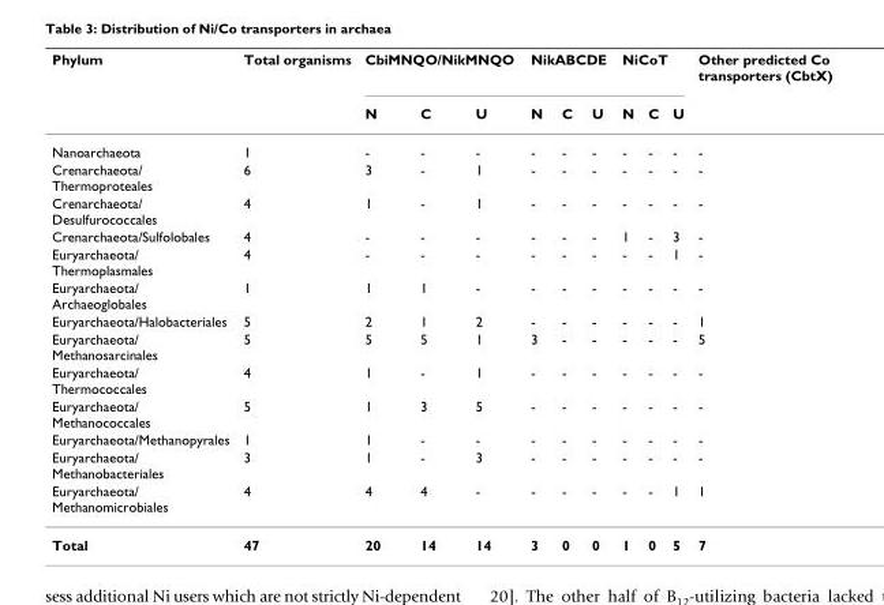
<table><thead><tr><td rowspan="2">Phylum</td><td rowspan="2">Total organisms</td><td colspan="3">CbiMNQO/NikMNQO</td><td colspan="3">NikABCDE</td><td colspan="3">NiCoT</td><td rowspan="2">Other predicted Co transporters (CbtX)</td></tr><tr><td>N</td><td>C</td><td>U</td><td>N</td><td>C</td><td>U</td><td>N</td><td>C</td><td>U</td></tr></thead><tbody><tr><td>Nanoarchaeota</td><td>1</td><td>-</td><td>-</td><td>-</td><td>-</td><td>-</td><td>-</td><td>-</td><td>-</td><td>-</td><td>-</td></tr><tr><td>Crenarchaeota/ Thermoproteales</td><td>6</td><td>3</td><td>-</td><td>1</td><td>-</td><td>-</td><td>-</td><td>-</td><td>-</td><td>-</td><td>-</td></tr><tr><td>Crenarchaeota/ Desulfurococcales</td><td>4</td><td>1</td><td>-</td><td>1</td><td>-</td><td>-</td><td>-</td><td>-</td><td>-</td><td>-</td><td>-</td></tr><tr><td>Crenarchaeota/Sulfolobales</td><td>4</td><td>-</td><td>-</td><td>-</td><td>-</td><td>-</td><td>-</td><td>1</td><td>-</td><td>3</td><td>-</td></tr><tr><td>Euryarchaeota/ Thermoplasmales</td><td>4</td><td>-</td><td>-</td><td>-</td><td>-</td><td>-</td><td>-</td><td>-</td><td>-</td><td>1</td><td>-</td></tr><tr><td>Euryarchaeota/ Archaeoglobales</td><td>1</td><td>1</td><td>1</td><td>-</td><td>-</td><td>-</td><td>-</td><td>-</td><td>-</td><td>-</td><td>-</td></tr><tr><td>Euryarchaeota/Halobacteriales</td><td>5</td><td>2</td><td>1</td><td>2</td><td>-</td><td>-</td><td>-</td><td>-</td><td>-</td><td>-</td><td>1</td></tr><tr><td>Euryarchaeota/ Methanosarcinales</td><td>5</td><td>5</td><td>5</td><td>1</td><td>3</td><td>-</td><td>-</td><td>-</td><td>-</td><td>-</td><td>5</td></tr><tr><td>Euryarchaeota/ Thermococcales</td><td>4</td><td>1</td><td>-</td><td>1</td><td>-</td><td>-</td><td>-</td><td>-</td><td>-</td><td>-</td><td>-</td></tr><tr><td>Euryarchaeota/ Methanococcales</td><td>5</td><td>1</td><td>3</td><td>5</td><td>-</td><td>-</td><td>-</td><td>-</td><td>-</td><td>-</td><td>-</td></tr><tr><td>Euryarchaeota/Methanopyrales</td><td>1</td><td>1</td><td>-</td><td>-</td><td>-</td><td>-</td><td>-</td><td>-</td><td>-</td><td>-</td><td>-</td></tr><tr><td>Euryarchaeota/ Methanobacteriales</td><td>3</td><td>1</td><td>-</td><td>3</td><td>-</td><td>-</td><td>-</td><td>-</td><td>-</td><td>-</td><td>-</td></tr><tr><td>Euryarchaeota/ Methanomicrobiales</td><td>4</td><td>4</td><td>4</td><td>-</td><td>-</td><td>-</td><td>-</td><td>-</td><td>-</td><td>1</td><td>1</td></tr><tr><td>Total</td><td>47</td><td>20</td><td>14</td><td>14</td><td>3</td><td>0</td><td>0</td><td>1</td><td>0</td><td>5</td><td>7</td></tr></tbody></table>